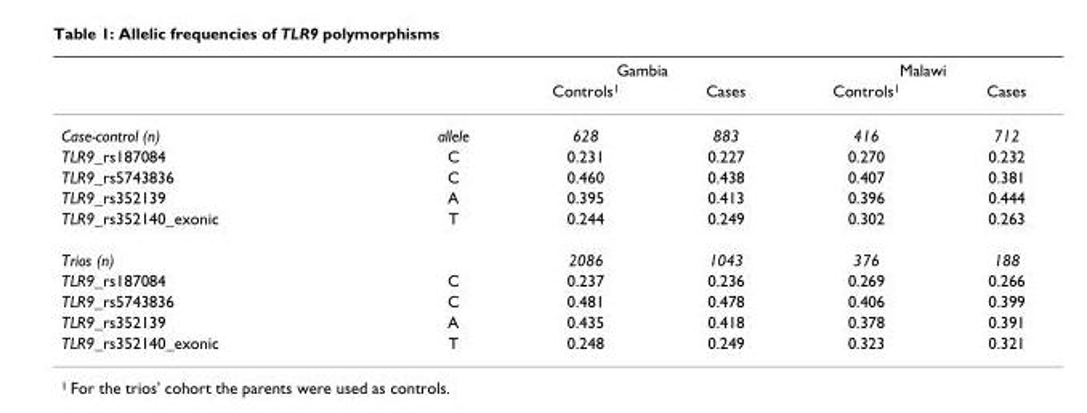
<table><thead><tr><td rowspan="2"></td><td rowspan="2"></td><td colspan="2">Gambia</td><td colspan="2">Malawi</td></tr><tr><td>Controls<sup>1</sup></td><td>Cases</td><td>Controls<sup>1</sup></td><td>Cases</td></tr></thead><tbody><tr><td>Case-control (n)</td><td>allele</td><td>628</td><td>883</td><td>416</td><td>712</td></tr><tr><td>TLR9_rs187084</td><td>C</td><td>0.231</td><td>0.227</td><td>0.270</td><td>0.232</td></tr><tr><td>TLR9_rs5743836</td><td>C</td><td>0.460</td><td>0.438</td><td>0.407</td><td>0.381</td></tr><tr><td>TLR9_rs352139</td><td>A</td><td>0.395</td><td>0.413</td><td>0.396</td><td>0.444</td></tr><tr><td>TLR9_rs352140_exonic</td><td>T</td><td>0.244</td><td>0.249</td><td>0.302</td><td>0.263</td></tr><tr><td>Trios (n)</td><td></td><td>2086</td><td>1043</td><td>376</td><td>188</td></tr><tr><td>TLR9_rs187084</td><td>C</td><td>0.237</td><td>0.236</td><td>0.269</td><td>0.266</td></tr><tr><td>TLR9_rs5743836</td><td>C</td><td>0.481</td><td>0.478</td><td>0.406</td><td>0.399</td></tr><tr><td>TLR9_rs352139</td><td>A</td><td>0.435</td><td>0.418</td><td>0.378</td><td>0.391</td></tr><tr><td>TLR9_rs352140_exonic</td><td>T</td><td>0.248</td><td>0.249</td><td>0.323</td><td>0.321</td></tr></tbody></table>